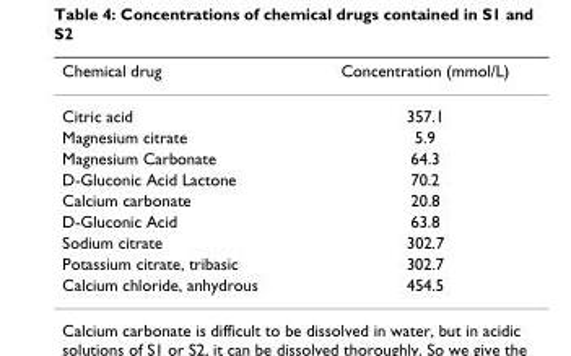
<table><thead><tr><td>Chemical drug</td><td>Concentration (mmol/L)</td></tr></thead><tbody><tr><td>Citric acid</td><td>357.1</td></tr><tr><td>Magnesium citrate</td><td>5.9</td></tr><tr><td>Magnesium Carbonate</td><td>64.3</td></tr><tr><td>D-Gluconic Acid Lactone</td><td>70.2</td></tr><tr><td>Calcium carbonate</td><td>20.8</td></tr><tr><td>D-Gluconic Acid</td><td>63.8</td></tr><tr><td>Sodium citrate</td><td>302.7</td></tr><tr><td>Potassium citrate, tribasic</td><td>302.7</td></tr><tr><td>Calcium chloride, anhydrous</td><td>454.5</td></tr></tbody></table>